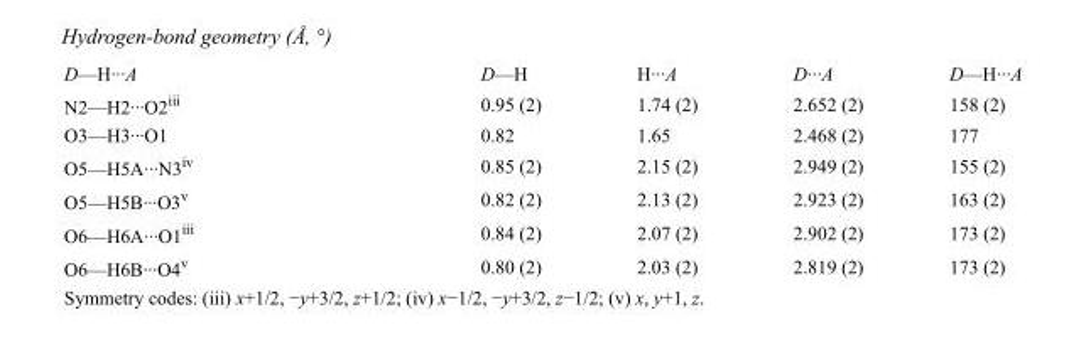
<table><tbody><tr><td>D—H···A</td><td>D—H</td><td>H···A</td><td>D···A</td><td>D—H···A</td></tr><tr><td>N2—H2···O2<sup>iii</sup></td><td>0.95 (2)</td><td>1.74 (2)</td><td>2.652 (2)</td><td>158 (2)</td></tr><tr><td>O3—H3···O1</td><td>0.82</td><td>1.65</td><td>2.468 (2)</td><td>177</td></tr><tr><td>O5—H5A···N3<sup>iv</sup></td><td>0.85 (2)</td><td>2.15 (2)</td><td>2.949 (2)</td><td>155 (2)</td></tr><tr><td>O5—H5B···O3<sup>v</sup></td><td>0.82 (2)</td><td>2.13 (2)</td><td>2.923 (2)</td><td>163 (2)</td></tr><tr><td>O6—H6A···O1<sup>iii</sup></td><td>0.84 (2)</td><td>2.07 (2)</td><td>2.902 (2)</td><td>173 (2)</td></tr><tr><td>O6—H6B···O4<sup>v</sup></td><td>0.80 (2)</td><td>2.03 (2)</td><td>2.819 (2)</td><td>173 (2)</td></tr></tbody></table>